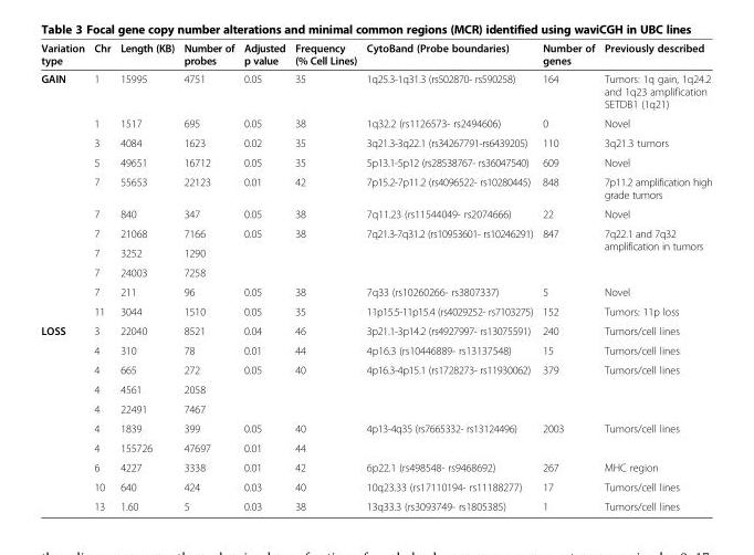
<table><thead><tr><td>Variation type</td><td>Chr</td><td>Length (KB)</td><td>Number of probes</td><td>Adjusted p value</td><td>Frequency (% Cell Lines)</td><td>CytoBand (Probe boundaries)</td><td>Number of genes</td><td>Previously described</td></tr></thead><tbody><tr><td rowspan="11">GAIN</td><td>1</td><td>15995</td><td>4751</td><td>0.05</td><td>35</td><td>1q25.3-1q31.3 (rs502870- rs590258)</td><td>164</td><td>Tumors: 1q gain, 1q24.2 and 1q23 amplification SETDB1 (1q21)</td></tr><tr><td>1</td><td>1517</td><td>695</td><td>0.05</td><td>38</td><td>1q32.2 (rs1126573- rs2494606)</td><td>0</td><td>Novel</td></tr><tr><td>3</td><td>4084</td><td>1623</td><td>0.02</td><td>35</td><td>3q21.3-3q22.1 (rs34267791-rs6439205)</td><td>110</td><td>3q21.3 tumors</td></tr><tr><td>5</td><td>49651</td><td>16712</td><td>0.05</td><td>35</td><td>5p13.1-5p12 (rs28538767- rs36047540)</td><td>609</td><td>Novel</td></tr><tr><td>7</td><td>55653</td><td>22123</td><td>0.01</td><td>42</td><td>7p15.2-7p11.2 (rs4096522- rs10280445)</td><td>848</td><td>7p11.2 amplification high grade tumors</td></tr><tr><td>7</td><td>840</td><td>347</td><td>0.05</td><td>38</td><td>7q11.23 (rs11544049- rs2074666)</td><td>22</td><td>Novel</td></tr><tr><td>7</td><td>21068</td><td>7166</td><td rowspan="3">0.05</td><td rowspan="3">38</td><td rowspan="3">7q21.3-7q31.2 (rs10953601- rs10246291)</td><td rowspan="3">847</td><td rowspan="3">7q22.1 and 7q32 amplification in tumors</td></tr><tr><td>7</td><td>3252</td><td>1290</td></tr><tr><td>7</td><td>24003</td><td>7258</td></tr><tr><td>7</td><td>211</td><td>96</td><td>0.05</td><td>38</td><td>7q33 (rs10260266- rs3807337)</td><td>5</td><td>Novel</td></tr><tr><td>11</td><td>3044</td><td>1510</td><td>0.05</td><td>35</td><td>11p15.5-11p15.4 (rs4029252- rs7103275)</td><td>152</td><td>Tumors: 11p loss</td></tr><tr><td rowspan="10">LOSS</td><td>3</td><td>22040</td><td>8521</td><td>0.04</td><td>46</td><td>3p21.1-3p14.2 (rs4927997- rs13075591)</td><td>240</td><td>Tumors/cell lines</td></tr><tr><td>4</td><td>310</td><td>78</td><td>0.01</td><td>44</td><td>4p16.3 (rs10446889- rs13137548)</td><td>15</td><td>Tumors/cell lines</td></tr><tr><td>4</td><td>665</td><td>272</td><td rowspan="3">0.05</td><td rowspan="3">40</td><td rowspan="3">4p16.3-4p15.1 (rs1728273- rs11930062)</td><td rowspan="3">379</td><td rowspan="3">Tumors/cell lines</td></tr><tr><td>4</td><td>4561</td><td>2058</td></tr><tr><td>4</td><td>22491</td><td>7467</td></tr><tr><td>4</td><td>1839</td><td>399</td><td>0.05</td><td>40</td><td rowspan="2">4p13-4q35 (rs7665332- rs13124496)</td><td rowspan="2">2003</td><td rowspan="2">Tumors/cell lines</td></tr><tr><td>4</td><td>155726</td><td>47697</td><td>0.01</td><td>44</td></tr><tr><td>6</td><td>4227</td><td>3338</td><td>0.01</td><td>42</td><td>6p22.1 (rs498548- rs9468692)</td><td>267</td><td>MHC region</td></tr><tr><td>10</td><td>640</td><td>424</td><td>0.03</td><td>40</td><td>10q23.33 (rs17110194- rs11188277)</td><td>17</td><td>Tumors/cell lines</td></tr><tr><td>13</td><td>1.60</td><td>5</td><td>0.03</td><td>38</td><td>13q33.3 (rs3093749- rs1805385)</td><td>1</td><td>Tumors/cell lines</td></tr></tbody></table>